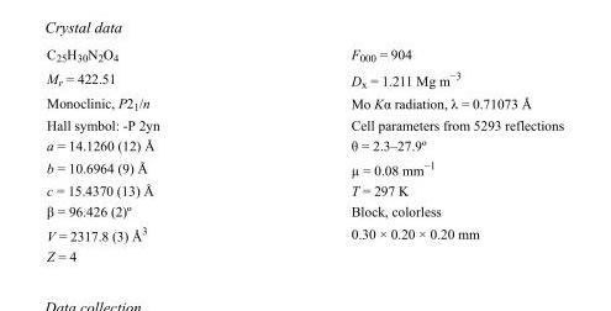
<table><tbody><tr><td>C<sub>25</sub>H<sub>30</sub>N<sub>2</sub>O<sub>4</sub></td><td>F000 = 904</td></tr><tr><td>M<sub>r</sub> = 422.51</td><td>D<sub>x</sub> = 1.211 Mg m<sup>−3</sup></td></tr><tr><td>Monoclinic, P2<sub>1</sub>/n</td><td>Mo Kα radiation, λ = 0.71073 Å</td></tr><tr><td>Hall symbol: -P 2yn</td><td>Cell parameters from 5293 reflections</td></tr><tr><td>a = 14.1260 (12) Å</td><td>θ = 2.3–27.9º</td></tr><tr><td>b = 10.6964 (9) Å</td><td>µ = 0.08 mm<sup>−1</sup></td></tr><tr><td>c = 15.4370 (13) Å</td><td>T = 297 K</td></tr><tr><td>β = 96.426 (2)º</td><td>Block, colorless</td></tr><tr><td>V = 2317.8 (3) Å<sup>3</sup></td><td>0.30 × 0.20 × 0.20 mm</td></tr><tr><td>Z = 4</td><td></td></tr></tbody></table>